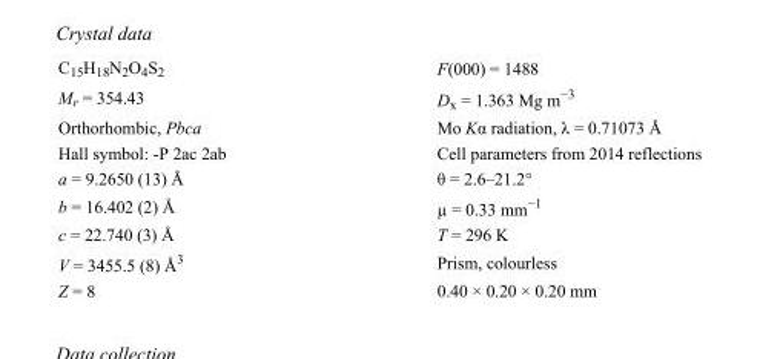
<table><tbody><tr><td>C<sub>15</sub>H<sub>18</sub>N<sub>2</sub>O<sub>4</sub>S<sub>2</sub></td><td>F(000) = 1488</td></tr><tr><td>M<sub>r</sub> = 354.43</td><td>D<sub>x</sub> = 1.363 Mg m<sup>−3</sup></td></tr><tr><td>Orthorhombic, Pbca</td><td>Mo Kα radiation, λ = 0.71073 Å</td></tr><tr><td>Hall symbol: -P 2ac 2ab</td><td>Cell parameters from 2014 reflections</td></tr><tr><td>a = 9.2650 (13) Å</td><td>θ = 2.6–21.2°</td></tr><tr><td>b = 16.402 (2) Å</td><td>µ = 0.33 mm<sup>−1</sup></td></tr><tr><td>c = 22.740 (3) Å</td><td>T = 296 K</td></tr><tr><td>V = 3455.5 (8) Å<sup>3</sup></td><td>Prism, colourless</td></tr><tr><td>Z = 8</td><td>0.40 × 0.20 × 0.20 mm</td></tr></tbody></table>